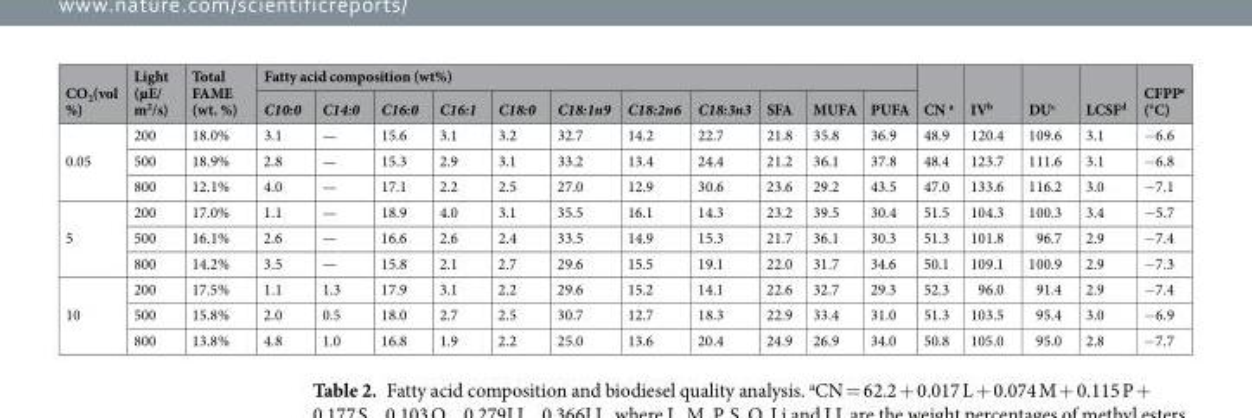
<table><thead><tr><td rowspan="2">CO<sub>2</sub>(vol %)</td><td rowspan="2">Light (µE/ m<sup>2</sup>/s)</td><td rowspan="2">Total FAME (wt. %)</td><td colspan="11">Fatty acid composition (wt%)</td><td rowspan="2">CN <sup>a</sup></td><td rowspan="2">IV<sup>b</sup></td><td rowspan="2">DU<sup>c</sup></td><td rowspan="2">LCSF<sup>d</sup></td><td rowspan="2">CFPP<sup>e</sup> (°C)</td></tr><tr><td>C10:0</td><td>C14:0</td><td>C16:0</td><td>C16:1</td><td>C18:0</td><td>C18:1n9</td><td>C18:2n6</td><td>C18:3n3</td><td>SFA</td><td>MUFA</td><td>PUFA</td></tr></thead><tbody><tr><td rowspan="3">0.05</td><td>200</td><td>18.0%</td><td>3.1</td><td>—</td><td>15.6</td><td>3.1</td><td>3.2</td><td>32.7</td><td>14.2</td><td>22.7</td><td>21.8</td><td>35.8</td><td>36.9</td><td>48.9</td><td>120.4</td><td>109.6</td><td>3.1</td><td>−6.6</td></tr><tr><td>500</td><td>18.9%</td><td>2.8</td><td>—</td><td>15.3</td><td>2.9</td><td>3.1</td><td>33.2</td><td>13.4</td><td>24.4</td><td>21.2</td><td>36.1</td><td>37.8</td><td>48.4</td><td>123.7</td><td>111.6</td><td>3.1</td><td>−6.8</td></tr><tr><td>800</td><td>12.1%</td><td>4.0</td><td>—</td><td>17.1</td><td>2.2</td><td>2.5</td><td>27.0</td><td>12.9</td><td>30.6</td><td>23.6</td><td>29.2</td><td>43.5</td><td>47.0</td><td>133.6</td><td>116.2</td><td>3.0</td><td>−7.1</td></tr><tr><td rowspan="3">5</td><td>200</td><td>17.0%</td><td>1.1</td><td>—</td><td>18.9</td><td>4.0</td><td>3.1</td><td>35.5</td><td>16.1</td><td>14.3</td><td>23.2</td><td>39.5</td><td>30.4</td><td>51.5</td><td>104.3</td><td>100.3</td><td>3.4</td><td>−5.7</td></tr><tr><td>500</td><td>16.1%</td><td>2.6</td><td>—</td><td>16.6</td><td>2.6</td><td>2.4</td><td>33.5</td><td>14.9</td><td>15.3</td><td>21.7</td><td>36.1</td><td>30.3</td><td>51.3</td><td>101.8</td><td>96.7</td><td>2.9</td><td>−7.4</td></tr><tr><td>800</td><td>14.2%</td><td>3.5</td><td>—</td><td>15.8</td><td>2.1</td><td>2.7</td><td>29.6</td><td>15.5</td><td>19.1</td><td>22.0</td><td>31.7</td><td>34.6</td><td>50.1</td><td>109.1</td><td>100.9</td><td>2.9</td><td>−7.3</td></tr><tr><td rowspan="3">10</td><td>200</td><td>17.5%</td><td>1.1</td><td>1.3</td><td>17.9</td><td>3.1</td><td>2.2</td><td>29.6</td><td>15.2</td><td>14.1</td><td>22.6</td><td>32.7</td><td>29.3</td><td>52.3</td><td>96.0</td><td>91.4</td><td>2.9</td><td>−7.4</td></tr><tr><td>500</td><td>15.8%</td><td>2.0</td><td>0.5</td><td>18.0</td><td>2.7</td><td>2.5</td><td>30.7</td><td>12.7</td><td>18.3</td><td>22.9</td><td>33.4</td><td>31.0</td><td>51.3</td><td>103.5</td><td>95.4</td><td>3.0</td><td>−6.9</td></tr><tr><td>800</td><td>13.8%</td><td>4.8</td><td>1.0</td><td>16.8</td><td>1.9</td><td>2.2</td><td>25.0</td><td>13.6</td><td>20.4</td><td>24.9</td><td>26.9</td><td>34.0</td><td>50.8</td><td>105.0</td><td>95.0</td><td>2.8</td><td>−7.7</td></tr></tbody></table>